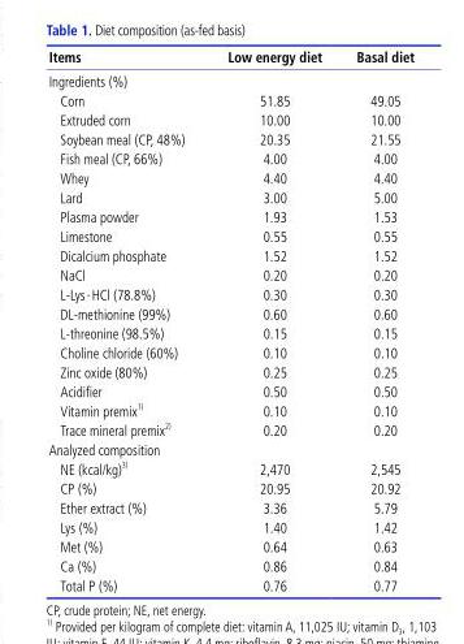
<table><thead><tr><td>Items</td><td>Low energy diet</td><td>Basal diet</td></tr></thead><tbody><tr><td colspan="3">Ingredients (%)</td></tr><tr><td>Corn</td><td>51.85</td><td>49.05</td></tr><tr><td>Extruded corn</td><td>10.00</td><td>10.00</td></tr><tr><td>Soybean meal (CP, 48%)</td><td>20.35</td><td>21.55</td></tr><tr><td>Fish meal (CP, 66%)</td><td>4.00</td><td>4.00</td></tr><tr><td>Whey</td><td>4.40</td><td>4.40</td></tr><tr><td>Lard</td><td>3.00</td><td>5.00</td></tr><tr><td>Plasma powder</td><td>1.93</td><td>1.53</td></tr><tr><td>Limestone</td><td>0.55</td><td>0.55</td></tr><tr><td>Dicalcium phosphate</td><td>1.52</td><td>1.52</td></tr><tr><td>NaCl</td><td>0.20</td><td>0.20</td></tr><tr><td>L-Lys·HCl (78.8%)</td><td>0.30</td><td>0.30</td></tr><tr><td>DL-methionine (99%)</td><td>0.60</td><td>0.60</td></tr><tr><td>L-threonine (98.5%)</td><td>0.15</td><td>0.15</td></tr><tr><td>Choline chloride (60%)</td><td>0.10</td><td>0.10</td></tr><tr><td>Zinc oxide (80%)</td><td>0.25</td><td>0.25</td></tr><tr><td>Acidifier</td><td>0.50</td><td>0.50</td></tr><tr><td>Vitamin premix 1)</td><td>0.10</td><td>0.10</td></tr><tr><td>Trace mineral premix 2)</td><td>0.20</td><td>0.20</td></tr><tr><td colspan="3">Analyzed composition</td></tr><tr><td>NE (kcal/kg) 3)</td><td>2,470</td><td>2,545</td></tr><tr><td>CP (%)</td><td>20.95</td><td>20.92</td></tr><tr><td>Ether extract (%)</td><td>3.36</td><td>5.79</td></tr><tr><td>Lys (%)</td><td>1.40</td><td>1.42</td></tr><tr><td>Met (%)</td><td>0.64</td><td>0.63</td></tr><tr><td>Ca (%)</td><td>0.86</td><td>0.84</td></tr><tr><td>Total P (%)</td><td>0.76</td><td>0.77</td></tr></tbody></table>